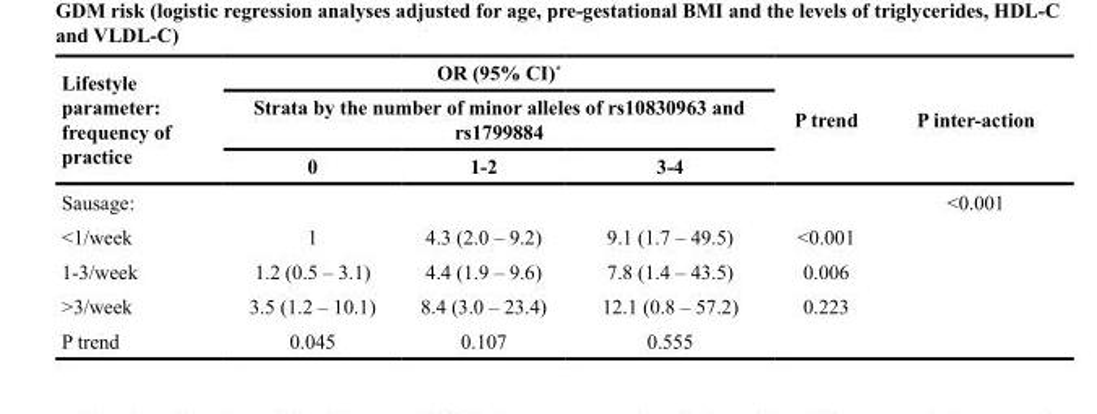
<table><thead><tr><td rowspan="3">Lifestyle parameter: frequency of practice</td><td rowspan="2" colspan="3">OR (95% CI)* Strata by the number of minor alleles of rs10830963 and rs1799884</td><td rowspan="3">P trend</td><td rowspan="3">P inter-action</td></tr><tr></tr><tr><td>0</td><td>1-2</td><td>3-4</td></tr></thead><tbody><tr><td>Sausage:</td><td></td><td></td><td></td><td></td><td>&lt;0.001</td></tr><tr><td>&lt;1/week</td><td>1</td><td>4.3 (2.0 – 9.2)</td><td>9.1 (1.7 – 49.5)</td><td>&lt;0.001</td><td></td></tr><tr><td>1-3/week</td><td>1.2 (0.5 – 3.1)</td><td>4.4 (1.9 – 9.6)</td><td>7.8 (1.4 – 43.5)</td><td>0.006</td><td></td></tr><tr><td>&gt;3/week</td><td>3.5 (1.2 – 10.1)</td><td>8.4 (3.0 – 23.4)</td><td>12.1 (0.8 – 57.2)</td><td>0.223</td><td></td></tr><tr><td>P trend</td><td>0.045</td><td>0.107</td><td>0.555</td><td></td><td></td></tr></tbody></table>